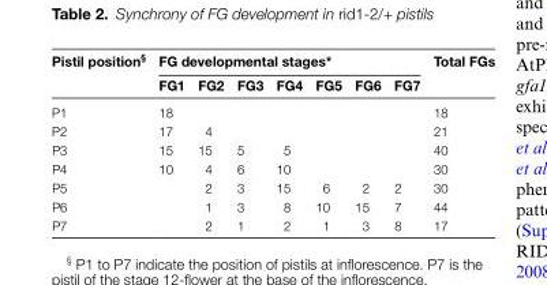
<table><thead><tr><td rowspan="2">Pistil position<sup>§</sup></td><td colspan="7">FG developmental stages*</td><td rowspan="2">Total FGs</td></tr><tr><td>FG1</td><td>FG2</td><td>FG3</td><td>FG4</td><td>FG5</td><td>FG6</td><td>FG7</td></tr></thead><tbody><tr><td>P1</td><td>18</td><td></td><td></td><td></td><td></td><td></td><td></td><td>18</td></tr><tr><td>P2</td><td>17</td><td>4</td><td></td><td></td><td></td><td></td><td></td><td>21</td></tr><tr><td>P3</td><td>15</td><td>15</td><td>5</td><td>5</td><td></td><td></td><td></td><td>40</td></tr><tr><td>P4</td><td>10</td><td>4</td><td>6</td><td>10</td><td></td><td></td><td></td><td>30</td></tr><tr><td>P5</td><td></td><td>2</td><td>3</td><td>15</td><td>6</td><td>2</td><td>2</td><td>30</td></tr><tr><td>P6</td><td></td><td>1</td><td>3</td><td>8</td><td>10</td><td>15</td><td>7</td><td>44</td></tr><tr><td>P7</td><td></td><td>2</td><td>1</td><td>2</td><td>1</td><td>3</td><td>8</td><td>17</td></tr></tbody></table>